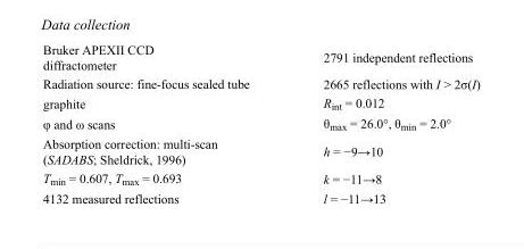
<table><tbody><tr><td>Bruker APEXII CCD diffractometer</td><td>2791 independent reflections</td></tr><tr><td>Radiation source: fine-focus sealed tube</td><td>2665 reflections with I &gt; 2σ(I)</td></tr><tr><td>graphite</td><td>R<sub>int</sub> = 0.012</td></tr><tr><td>φ and ω scans</td><td>θ<sub>max</sub> = 26.0°, θ<sub>min</sub> = 2.0°</td></tr><tr><td>Absorption correction: multi-scan (SADABS; Sheldrick, 1996)</td><td>h = −9→10</td></tr><tr><td>T<sub>min</sub> = 0.607, T<sub>max</sub> = 0.693</td><td>k = −11→8</td></tr><tr><td>4132 measured reflections</td><td>l = −11→13</td></tr></tbody></table>